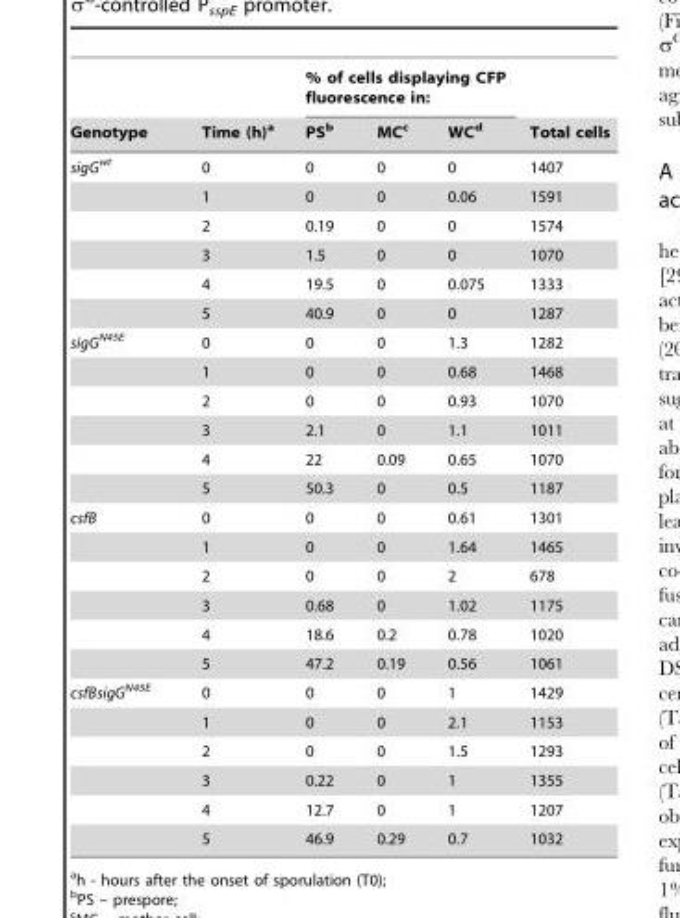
<table><thead><tr><td rowspan="2">Genotype</td><td rowspan="2">Time (h)<sup>a</sup></td><td colspan="3">% of cells displaying CFP fluorescence in:</td><td rowspan="2">Total cells</td></tr><tr><td>PS<sup>b</sup></td><td>MC<sup>c</sup></td><td>WC<sup>d</sup></td></tr></thead><tbody><tr><td rowspan="6">sigG<sup>wt</sup></td><td>0</td><td>0</td><td>0</td><td>0</td><td>1407</td></tr><tr><td>1</td><td>0</td><td>0</td><td>0.06</td><td>1591</td></tr><tr><td>2</td><td>0.19</td><td>0</td><td>0</td><td>1574</td></tr><tr><td>3</td><td>1.5</td><td>0</td><td>0</td><td>1070</td></tr><tr><td>4</td><td>19.5</td><td>0</td><td>0.075</td><td>1333</td></tr><tr><td>5</td><td>40.9</td><td>0</td><td>0</td><td>1287</td></tr><tr><td rowspan="6">sigG<sup>N45E</sup></td><td>0</td><td>0</td><td>0</td><td>1.3</td><td>1282</td></tr><tr><td>1</td><td>0</td><td>0</td><td>0.68</td><td>1468</td></tr><tr><td>2</td><td>0</td><td>0</td><td>0.93</td><td>1070</td></tr><tr><td>3</td><td>2.1</td><td>0</td><td>1.1</td><td>1011</td></tr><tr><td>4</td><td>22</td><td>0.09</td><td>0.65</td><td>1070</td></tr><tr><td>5</td><td>50.3</td><td>0</td><td>0.5</td><td>1187</td></tr><tr><td rowspan="6">csfB</td><td>0</td><td>0</td><td>0</td><td>0.61</td><td>1301</td></tr><tr><td>1</td><td>0</td><td>0</td><td>1.64</td><td>1465</td></tr><tr><td>2</td><td>0</td><td>0</td><td>2</td><td>678</td></tr><tr><td>3</td><td>0.68</td><td>0</td><td>1.02</td><td>1175</td></tr><tr><td>4</td><td>18.6</td><td>0.2</td><td>0.78</td><td>1020</td></tr><tr><td>5</td><td>47.2</td><td>0.19</td><td>0.56</td><td>1061</td></tr><tr><td rowspan="6">csfBsigG<sup>N45E</sup></td><td>0</td><td>0</td><td>0</td><td>1</td><td>1429</td></tr><tr><td>1</td><td>0</td><td>0</td><td>2.1</td><td>1153</td></tr><tr><td>2</td><td>0</td><td>0</td><td>1.5</td><td>1293</td></tr><tr><td>3</td><td>0.22</td><td>0</td><td>1</td><td>1355</td></tr><tr><td>4</td><td>12.7</td><td>0</td><td>1</td><td>1207</td></tr><tr><td>5</td><td>46.9</td><td>0.29</td><td>0.7</td><td>1032</td></tr></tbody></table>